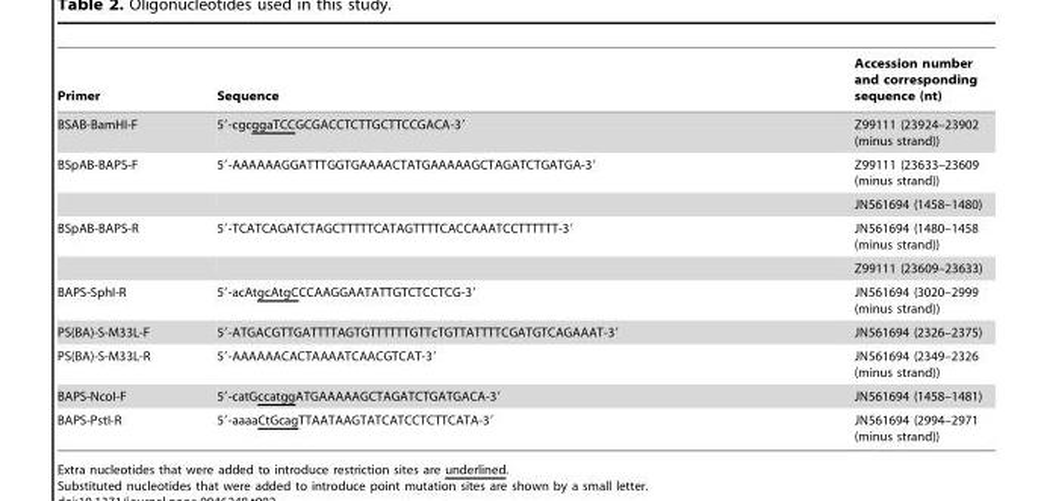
<table><thead><tr><td>Primer</td><td>Sequence</td><td>Accession number and corresponding sequence (nt)</td></tr></thead><tbody><tr><td>BSAB-BamHI-F</td><td>5′-cgcggaTCCGCGACCTCTTGCTTCCGACA-3′</td><td>Z99111 (23924–23902 (minus strand))</td></tr><tr><td rowspan="2">BSpAB-BAPS-F</td><td>5′-AAAAAAGGATTTGGTGAAAACTATGAAAAAGCTAGATCTGATGA-3′</td><td>Z99111 (23633–23609 (minus strand))</td></tr><tr><td></td><td>JN561694 (1458–1480)</td></tr><tr><td rowspan="2">BSpAB-BAPS-R</td><td>5′-TCATCAGATCTAGCTTTTTCATAGTTTTCACCAAATCCTTTTTT-3′</td><td>JN561694 (1480–1458 (minus strand))</td></tr><tr><td></td><td>Z99111 (23609–23633)</td></tr><tr><td>BAPS-SphI-R</td><td>5′-acAtgcAtgCCCAAGGAATATTGTCTCCTCG-3′</td><td>JN561694 (3020–2999 (minus strand))</td></tr><tr><td>PS(BA)-S-M33L-F</td><td>5′-ATGACGTTGATTTTAGTGTTTTTTGTTcTGTTATTTTCGATGTCAGAAAT-3′</td><td>JN561694 (2326–2375)</td></tr><tr><td>PS(BA)-S-M33L-R</td><td>5′-AAAAAACACTAAAATCAACGTCAT-3′</td><td>JN561694 (2349–2326 (minus strand))</td></tr><tr><td>BAPS-NcoI-F</td><td>5′-catGccatggATGAAAAAGCTAGATCTGATGACA-3′</td><td>JN561694 (1458–1481)</td></tr><tr><td>BAPS-PstI-R</td><td>5′-aaaaCtGcagTTAATAAGTATCATCCTCTTCATA-3′</td><td>JN561694 (2994–2971 (minus strand))</td></tr></tbody></table>